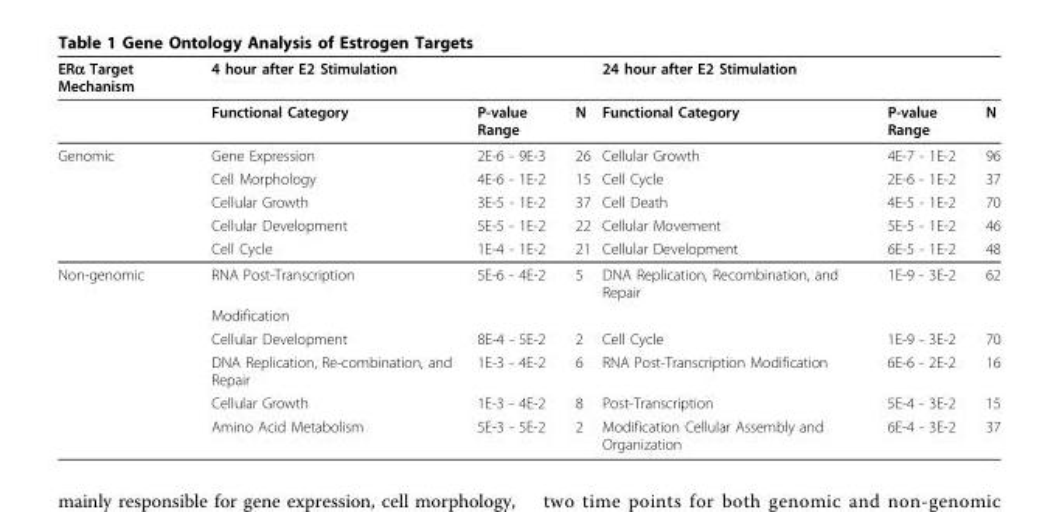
<table><thead><tr><td rowspan="2">ERα Target Mechanism</td><td colspan="3">4 hour after E2 Stimulation</td><td colspan="3">24 hour after E2 Stimulation</td></tr><tr><td>Functional Category</td><td>P-value Range</td><td>N</td><td>Functional Category</td><td>P-value Range</td><td>N</td></tr></thead><tbody><tr><td rowspan="5">Genomic</td><td>Gene Expression</td><td>2E-6 - 9E-3</td><td>26</td><td>Cellular Growth</td><td>4E-7 - 1E-2</td><td>96</td></tr><tr><td>Cell Morphology</td><td>4E-6 - 1E-2</td><td>15</td><td>Cell Cycle</td><td>2E-6 - 1E-2</td><td>37</td></tr><tr><td>Cellular Growth</td><td>3E-5 - 1E-2</td><td>37</td><td>Cell Death</td><td>4E-5 - 1E-2</td><td>70</td></tr><tr><td>Cellular Development</td><td>5E-5 - 1E-2</td><td>22</td><td>Cellular Movement</td><td>5E-5 - 1E-2</td><td>46</td></tr><tr><td>Cell Cycle</td><td>1E-4 - 1E-2</td><td>21</td><td>Cellular Development</td><td>6E-5 - 1E-2</td><td>48</td></tr><tr><td rowspan="6">Non-genomic</td><td>RNA Post-Transcription</td><td>5E-6 - 4E-2</td><td>5</td><td>DNA Replication, Recombination, and Repair</td><td>1E-9 - 3E-2</td><td>62</td></tr><tr><td>Modification</td><td></td><td></td><td></td><td></td><td></td></tr><tr><td>Cellular Development</td><td>8E-4 - 5E-2</td><td>2</td><td>Cell Cycle</td><td>1E-9 - 3E-2</td><td>70</td></tr><tr><td>DNA Replication, Re-combination, and Repair</td><td>1E-3 - 4E-2</td><td>6</td><td>RNA Post-Transcription Modification</td><td>6E-6 - 2E-2</td><td>16</td></tr><tr><td>Cellular Growth</td><td>1E-3 - 4E-2</td><td>8</td><td>Post-Transcription</td><td>5E-4 - 3E-2</td><td>15</td></tr><tr><td>Amino Acid Metabolism</td><td>5E-3 - 5E-2</td><td>2</td><td>Modification Cellular Assembly and Organization</td><td>6E-4 - 3E-2</td><td>37</td></tr></tbody></table>